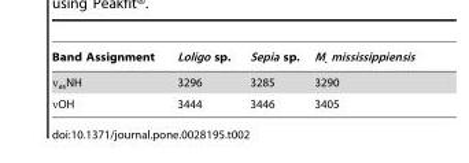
<table><thead><tr><td>Band Assignment</td><td>Loligo sp.</td><td>Sepia sp.</td><td>M<sub>.</sub> mississippiensis</td></tr></thead><tbody><tr><td>ν<sub>as</sub>NH</td><td>3296</td><td>3285</td><td>3290</td></tr><tr><td>νOH</td><td>3444</td><td>3446</td><td>3405</td></tr></tbody></table>